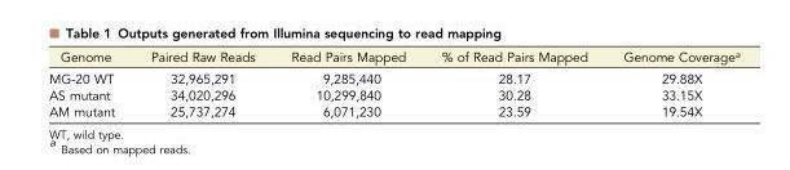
<table><thead><tr><td>Genome</td><td>Paired Raw Reads</td><td>Read Pairs Mapped</td><td>% of Read Pairs Mapped</td><td>Genome Coverage<sup>a</sup></td></tr></thead><tbody><tr><td>MG-20 WT</td><td>32,965,291</td><td>9,285,440</td><td>28.17</td><td>29.88X</td></tr><tr><td>AS mutant</td><td>34,020,296</td><td>10,299,840</td><td>30.28</td><td>33.15X</td></tr><tr><td>AM mutant</td><td>25,737,274</td><td>6,071,230</td><td>23.59</td><td>19.54X</td></tr></tbody></table>